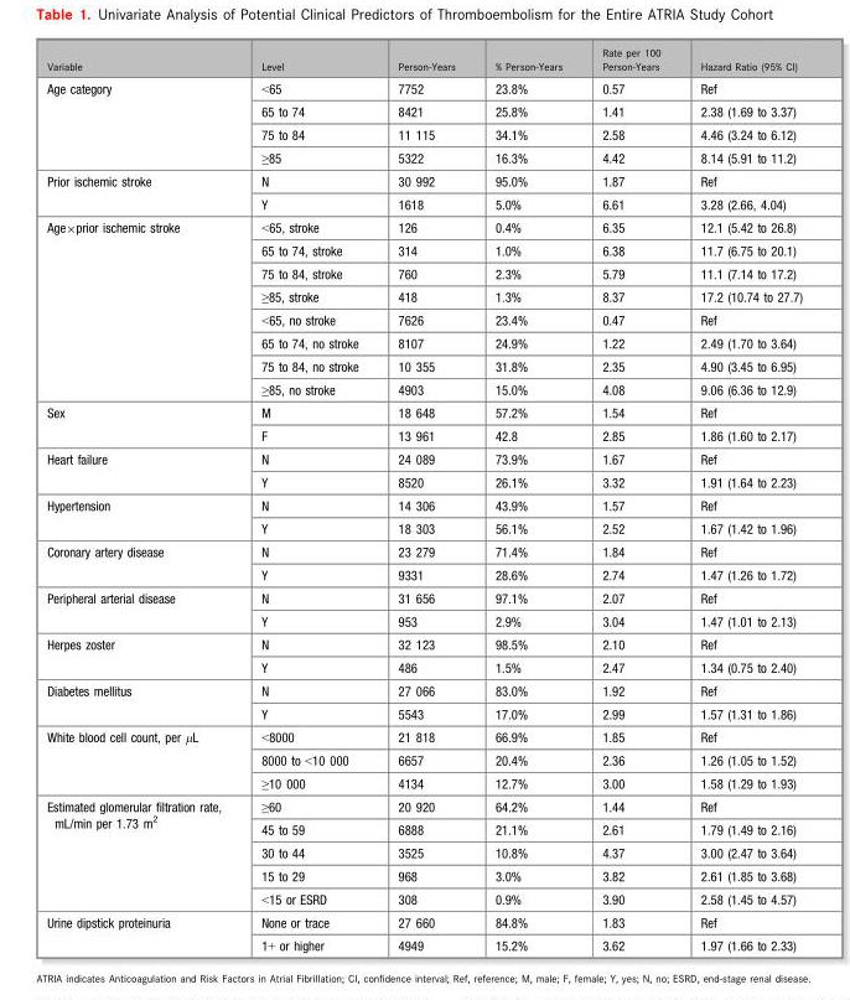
<table><thead><tr><td>Variable</td><td>Level</td><td>Person-Years</td><td>% Person-Years</td><td>Rate per 100 Person-Years</td><td>Hazard Ratio (95% CI)</td></tr></thead><tbody><tr><td rowspan="4">Age category</td><td>&lt;65</td><td>7752</td><td>23.8%</td><td>0.57</td><td>Ref</td></tr><tr><td>65 to 74</td><td>8421</td><td>25.8%</td><td>1.41</td><td>2.38 (1.69 to 3.37)</td></tr><tr><td>75 to 84</td><td>11 115</td><td>34.1%</td><td>2.58</td><td>4.46 (3.24 to 6.12)</td></tr><tr><td>≥85</td><td>5322</td><td>16.3%</td><td>4.42</td><td>8.14 (5.91 to 11.2)</td></tr><tr><td rowspan="2">Prior ischemic stroke</td><td>N</td><td>30 992</td><td>95.0%</td><td>1.87</td><td>Ref</td></tr><tr><td>Y</td><td>1618</td><td>5.0%</td><td>6.61</td><td>3.28 (2.66, 4.04)</td></tr><tr><td rowspan="8">Age×prior ischemic stroke</td><td>&lt;65, stroke</td><td>126</td><td>0.4%</td><td>6.35</td><td>12.1 (5.42 to 26.8)</td></tr><tr><td>65 to 74, stroke</td><td>314</td><td>1.0%</td><td>6.38</td><td>11.7 (6.75 to 20.1)</td></tr><tr><td>75 to 84, stroke</td><td>760</td><td>2.3%</td><td>5.79</td><td>11.1 (7.14 to 17.2)</td></tr><tr><td>≥85, stroke</td><td>418</td><td>1.3%</td><td>8.37</td><td>17.2 (10.74 to 27.7)</td></tr><tr><td>&lt;65, no stroke</td><td>7626</td><td>23.4%</td><td>0.47</td><td>Ref</td></tr><tr><td>65 to 74, no stroke</td><td>8107</td><td>24.9%</td><td>1.22</td><td>2.49 (1.70 to 3.64)</td></tr><tr><td>75 to 84, no stroke</td><td>10 355</td><td>31.8%</td><td>2.35</td><td>4.90 (3.45 to 6.95)</td></tr><tr><td>≥85, no stroke</td><td>4903</td><td>15.0%</td><td>4.08</td><td>9.06 (6.36 to 12.9)</td></tr><tr><td rowspan="2">Sex</td><td>M</td><td>18 648</td><td>57.2%</td><td>1.54</td><td>Ref</td></tr><tr><td>F</td><td>13 961</td><td>42.8</td><td>2.85</td><td>1.86 (1.60 to 2.17)</td></tr><tr><td rowspan="2">Heart failure</td><td>N</td><td>24 089</td><td>73.9%</td><td>1.67</td><td>Ref</td></tr><tr><td>Y</td><td>8520</td><td>26.1%</td><td>3.32</td><td>1.91 (1.64 to 2.23)</td></tr><tr><td rowspan="2">Hypertension</td><td>N</td><td>14 306</td><td>43.9%</td><td>1.57</td><td>Ref</td></tr><tr><td>Y</td><td>18 303</td><td>56.1%</td><td>2.52</td><td>1.67 (1.42 to 1.96)</td></tr><tr><td rowspan="2">Coronary artery disease</td><td>N</td><td>23 279</td><td>71.4%</td><td>1.84</td><td>Ref</td></tr><tr><td>Y</td><td>9331</td><td>28.6%</td><td>2.74</td><td>1.47 (1.26 to 1.72)</td></tr><tr><td rowspan="2">Peripheral arterial disease</td><td>N</td><td>31 656</td><td>97.1%</td><td>2.07</td><td>Ref</td></tr><tr><td>Y</td><td>953</td><td>2.9%</td><td>3.04</td><td>1.47 (1.01 to 2.13)</td></tr><tr><td rowspan="2">Herpes zoster</td><td>N</td><td>32 123</td><td>98.5%</td><td>2.10</td><td>Ref</td></tr><tr><td>Y</td><td>486</td><td>1.5%</td><td>2.47</td><td>1.34 (0.75 to 2.40)</td></tr><tr><td rowspan="2">Diabetes mellitus</td><td>N</td><td>27 066</td><td>83.0%</td><td>1.92</td><td>Ref</td></tr><tr><td>Y</td><td>5543</td><td>17.0%</td><td>2.99</td><td>1.57 (1.31 to 1.86)</td></tr><tr><td rowspan="3">White blood cell count, per μL</td><td>&lt;8000</td><td>21 818</td><td>66.9%</td><td>1.85</td><td>Ref</td></tr><tr><td>8000 to &lt;10 000</td><td>6657</td><td>20.4%</td><td>2.36</td><td>1.26 (1.05 to 1.52)</td></tr><tr><td>≥10 000</td><td>4134</td><td>12.7%</td><td>3.00</td><td>1.58 (1.29 to 1.93)</td></tr><tr><td rowspan="5">Estimated glomerular filtration rate, mL/min per 1.73 m<sup>2</sup></td><td>≥60</td><td>20 920</td><td>64.2%</td><td>1.44</td><td>Ref</td></tr><tr><td>45 to 59</td><td>6888</td><td>21.1%</td><td>2.61</td><td>1.79 (1.49 to 2.16)</td></tr><tr><td>30 to 44</td><td>3525</td><td>10.8%</td><td>4.37</td><td>3.00 (2.47 to 3.64)</td></tr><tr><td>15 to 29</td><td>968</td><td>3.0%</td><td>3.82</td><td>2.61 (1.85 to 3.68)</td></tr><tr><td>&lt;15 or ESRD</td><td>308</td><td>0.9%</td><td>3.90</td><td>2.58 (1.45 to 4.57)</td></tr><tr><td rowspan="2">Urine dipstick proteinuria</td><td>None or trace</td><td>27 660</td><td>84.8%</td><td>1.83</td><td>Ref</td></tr><tr><td>1+ or higher</td><td>4949</td><td>15.2%</td><td>3.62</td><td>1.97 (1.66 to 2.33)</td></tr></tbody></table>